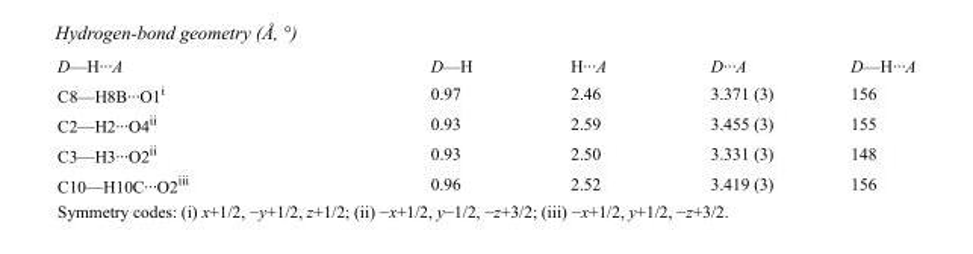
<table><tbody><tr><td>D—H···A</td><td>D—H</td><td>H···A</td><td>D···A</td><td>D—H···A</td></tr><tr><td>C8—H8B···O1<sup>i</sup></td><td>0.97</td><td>2.46</td><td>3.371 (3)</td><td>156</td></tr><tr><td>C2—H2···O4<sup>ii</sup></td><td>0.93</td><td>2.59</td><td>3.455 (3)</td><td>155</td></tr><tr><td>C3—H3···O2<sup>ii</sup></td><td>0.93</td><td>2.50</td><td>3.331 (3)</td><td>148</td></tr><tr><td>C10—H10C···O2<sup>iii</sup></td><td>0.96</td><td>2.52</td><td>3.419 (3)</td><td>156</td></tr></tbody></table>